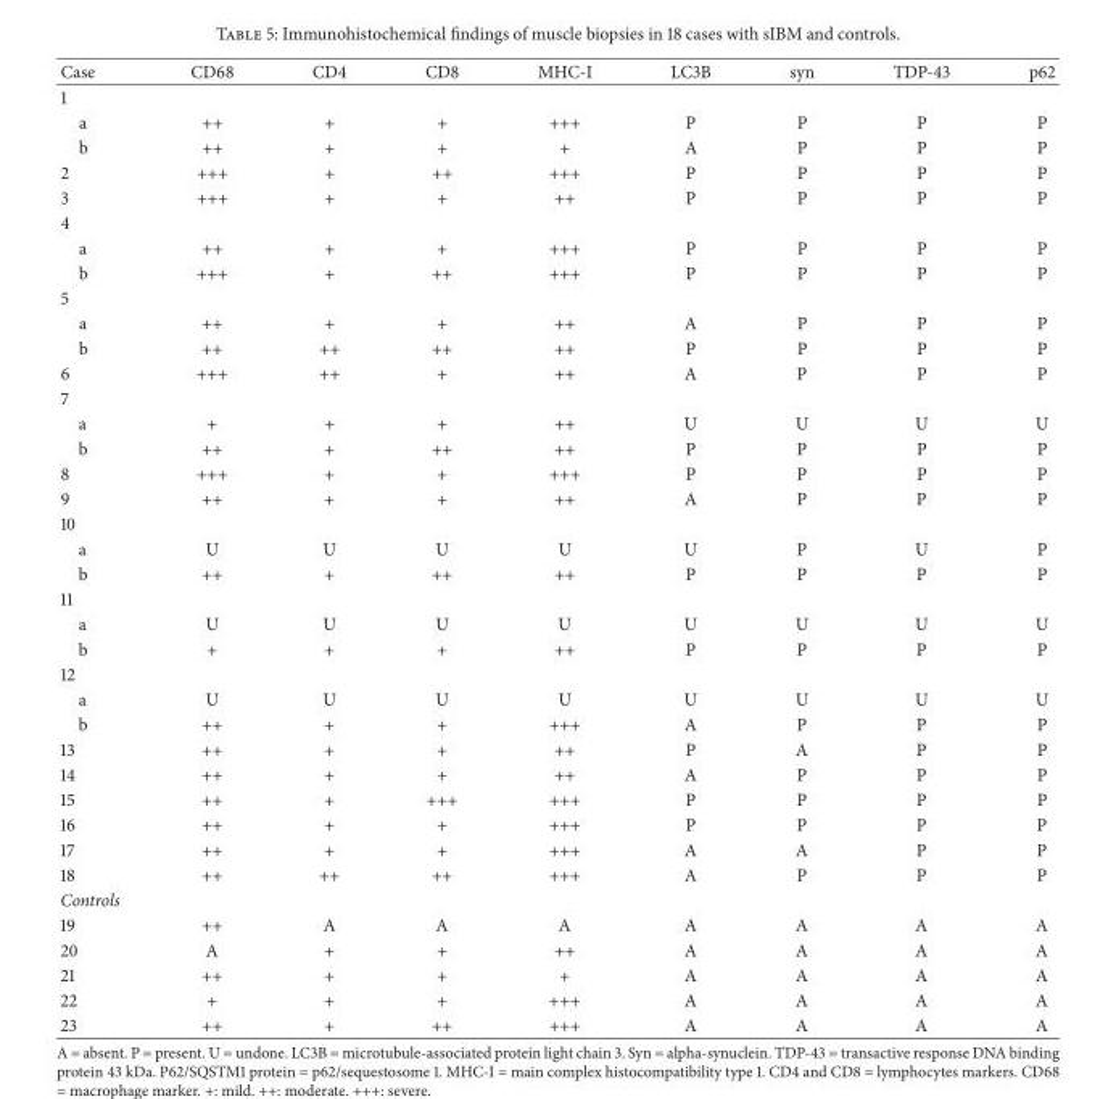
<table><thead><tr><td>Case</td><td>CD68</td><td>CD4</td><td>CD8</td><td>MHC-I</td><td>LC3B</td><td>syn</td><td>TDP-43</td><td>p62</td></tr></thead><tbody><tr><td colspan="9">1</td></tr><tr><td>a</td><td>++</td><td>+</td><td>+</td><td>+++</td><td>P</td><td>P</td><td>P</td><td>P</td></tr><tr><td>b</td><td>++</td><td>+</td><td>+</td><td>+</td><td>A</td><td>P</td><td>P</td><td>P</td></tr><tr><td>2</td><td>+++</td><td>+</td><td>++</td><td>+++</td><td>P</td><td>P</td><td>P</td><td>P</td></tr><tr><td>3</td><td>+++</td><td>+</td><td>+</td><td>++</td><td>P</td><td>P</td><td>P</td><td>P</td></tr><tr><td colspan="9">4</td></tr><tr><td>a</td><td>++</td><td>+</td><td>+</td><td>+++</td><td>P</td><td>P</td><td>P</td><td>P</td></tr><tr><td>b</td><td>+++</td><td>+</td><td>++</td><td>+++</td><td>P</td><td>P</td><td>P</td><td>P</td></tr><tr><td colspan="9">5</td></tr><tr><td>a</td><td>++</td><td>+</td><td>+</td><td>++</td><td>A</td><td>P</td><td>P</td><td>P</td></tr><tr><td>b</td><td>++</td><td>++</td><td>++</td><td>++</td><td>P</td><td>P</td><td>P</td><td>P</td></tr><tr><td>6</td><td>+++</td><td>++</td><td>+</td><td>++</td><td>A</td><td>P</td><td>P</td><td>P</td></tr><tr><td colspan="9">7</td></tr><tr><td>a</td><td>+</td><td>+</td><td>+</td><td>++</td><td>U</td><td>U</td><td>U</td><td>U</td></tr><tr><td>b</td><td>++</td><td>+</td><td>++</td><td>++</td><td>P</td><td>P</td><td>P</td><td>P</td></tr><tr><td>8</td><td>+++</td><td>+</td><td>+</td><td>+++</td><td>P</td><td>P</td><td>P</td><td>P</td></tr><tr><td>9</td><td>++</td><td>+</td><td>+</td><td>++</td><td>A</td><td>P</td><td>P</td><td>P</td></tr><tr><td colspan="9">10</td></tr><tr><td>a</td><td>U</td><td>U</td><td>U</td><td>U</td><td>U</td><td>P</td><td>U</td><td>P</td></tr><tr><td>b</td><td>++</td><td>+</td><td>++</td><td>++</td><td>P</td><td>P</td><td>P</td><td>P</td></tr><tr><td colspan="9">11</td></tr><tr><td>a</td><td>U</td><td>U</td><td>U</td><td>U</td><td>U</td><td>U</td><td>U</td><td>U</td></tr><tr><td>b</td><td>+</td><td>+</td><td>+</td><td>++</td><td>P</td><td>P</td><td>P</td><td>P</td></tr><tr><td colspan="9">12</td></tr><tr><td>a</td><td>U</td><td>U</td><td>U</td><td>U</td><td>U</td><td>U</td><td>U</td><td>U</td></tr><tr><td>b</td><td>++</td><td>+</td><td>+</td><td>+++</td><td>A</td><td>P</td><td>P</td><td>P</td></tr><tr><td>13</td><td>++</td><td>+</td><td>+</td><td>++</td><td>P</td><td>A</td><td>P</td><td>P</td></tr><tr><td>14</td><td>++</td><td>+</td><td>+</td><td>++</td><td>A</td><td>P</td><td>P</td><td>P</td></tr><tr><td>15</td><td>++</td><td>+</td><td>+++</td><td>+++</td><td>P</td><td>P</td><td>P</td><td>P</td></tr><tr><td>16</td><td>++</td><td>+</td><td>+</td><td>+++</td><td>P</td><td>P</td><td>P</td><td>P</td></tr><tr><td>17</td><td>++</td><td>+</td><td>+</td><td>+++</td><td>A</td><td>A</td><td>P</td><td>P</td></tr><tr><td>18</td><td>++</td><td>++</td><td>++</td><td>+++</td><td>A</td><td>P</td><td>P</td><td>P</td></tr><tr><td colspan="9">Controls</td></tr><tr><td>19</td><td>++</td><td>A</td><td>A</td><td>A</td><td>A</td><td>A</td><td>A</td><td>A</td></tr><tr><td>20</td><td>A</td><td>+</td><td>+</td><td>++</td><td>A</td><td>A</td><td>A</td><td>A</td></tr><tr><td>21</td><td>++</td><td>+</td><td>+</td><td>+</td><td>A</td><td>A</td><td>A</td><td>A</td></tr><tr><td>22</td><td>+</td><td>+</td><td>+</td><td>+++</td><td>A</td><td>A</td><td>A</td><td>A</td></tr><tr><td>23</td><td>++</td><td>+</td><td>++</td><td>+++</td><td>A</td><td>A</td><td>A</td><td>A</td></tr></tbody></table>